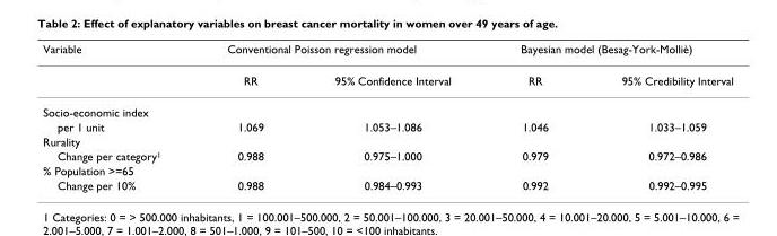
<table><thead><tr><td rowspan="2">Variable</td><td colspan="2">Conventional Poisson regression model</td><td colspan="2">Bayesian model (Besag-York-Molliè)</td></tr><tr><td>RR</td><td>95% Confidence Interval</td><td>RR</td><td>95% Credibility Interval</td></tr></thead><tbody><tr><td colspan="5">Socio-economic index</td></tr><tr><td>per 1 unit</td><td>1.069</td><td>1.053–1.086</td><td>1.046</td><td>1.033–1.059</td></tr><tr><td colspan="5">Rurality</td></tr><tr><td>Change per category<sup>1</sup></td><td>0.988</td><td>0.975–1.000</td><td>0.979</td><td>0.972–0.986</td></tr><tr><td colspan="5">% Population &gt;=65</td></tr><tr><td>Change per 10%</td><td>0.988</td><td>0.984–0.993</td><td>0.992</td><td>0.992–0.995</td></tr></tbody></table>